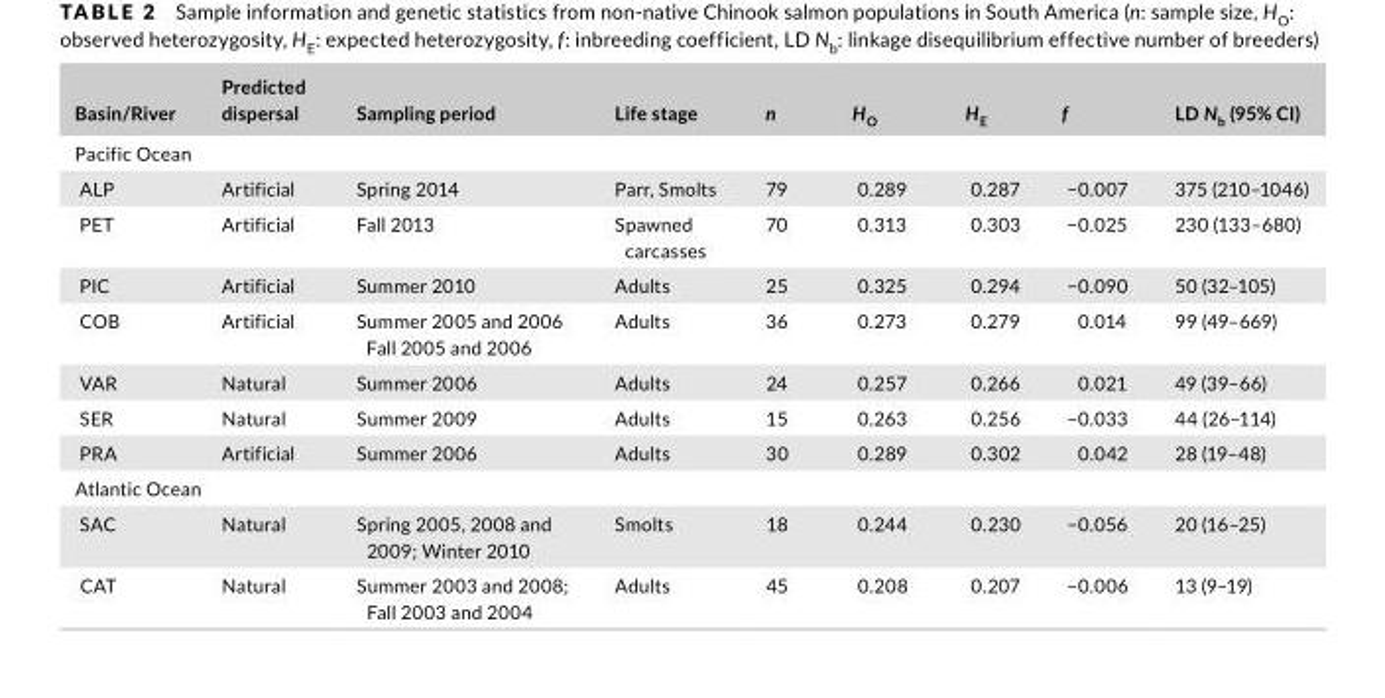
<table><thead><tr><td>Basin/River</td><td>Predicted dispersal</td><td>Sampling period</td><td>Life stage</td><td>n</td><td>H<sub>O</sub></td><td>H<sub>E</sub></td><td>f</td><td>LD N<sub>b</sub> (95% CI)</td></tr></thead><tbody><tr><td colspan="9">Pacific Ocean</td></tr><tr><td>ALP</td><td>Artificial</td><td>Spring 2014</td><td>Parr, Smolts</td><td>79</td><td>0.289</td><td>0.287</td><td>−0.007</td><td>375 (210–1046)</td></tr><tr><td>PET</td><td>Artificial</td><td>Fall 2013</td><td>Spawned carcasses</td><td>70</td><td>0.313</td><td>0.303</td><td>−0.025</td><td>230 (133–680)</td></tr><tr><td>PIC</td><td>Artificial</td><td>Summer 2010</td><td>Adults</td><td>25</td><td>0.325</td><td>0.294</td><td>−0.090</td><td>50 (32–105)</td></tr><tr><td>COB</td><td>Artificial</td><td>Summer 2005 and 2006 Fall 2005 and 2006</td><td>Adults</td><td>36</td><td>0.273</td><td>0.279</td><td>0.014</td><td>99 (49–669)</td></tr><tr><td>VAR</td><td>Natural</td><td>Summer 2006</td><td>Adults</td><td>24</td><td>0.257</td><td>0.266</td><td>0.021</td><td>49 (39–66)</td></tr><tr><td>SER</td><td>Natural</td><td>Summer 2009</td><td>Adults</td><td>15</td><td>0.263</td><td>0.256</td><td>−0.033</td><td>44 (26–114)</td></tr><tr><td>PRA</td><td>Artificial</td><td>Summer 2006</td><td>Adults</td><td>30</td><td>0.289</td><td>0.302</td><td>0.042</td><td>28 (19–48)</td></tr><tr><td colspan="9">Atlantic Ocean</td></tr><tr><td>SAC</td><td>Natural</td><td>Spring 2005, 2008 and 2009; Winter 2010</td><td>Smolts</td><td>18</td><td>0.244</td><td>0.230</td><td>−0.056</td><td>20 (16–25)</td></tr><tr><td>CAT</td><td>Natural</td><td>Summer 2003 and 2008; Fall 2003 and 2004</td><td>Adults</td><td>45</td><td>0.208</td><td>0.207</td><td>−0.006</td><td>13 (9–19)</td></tr></tbody></table>